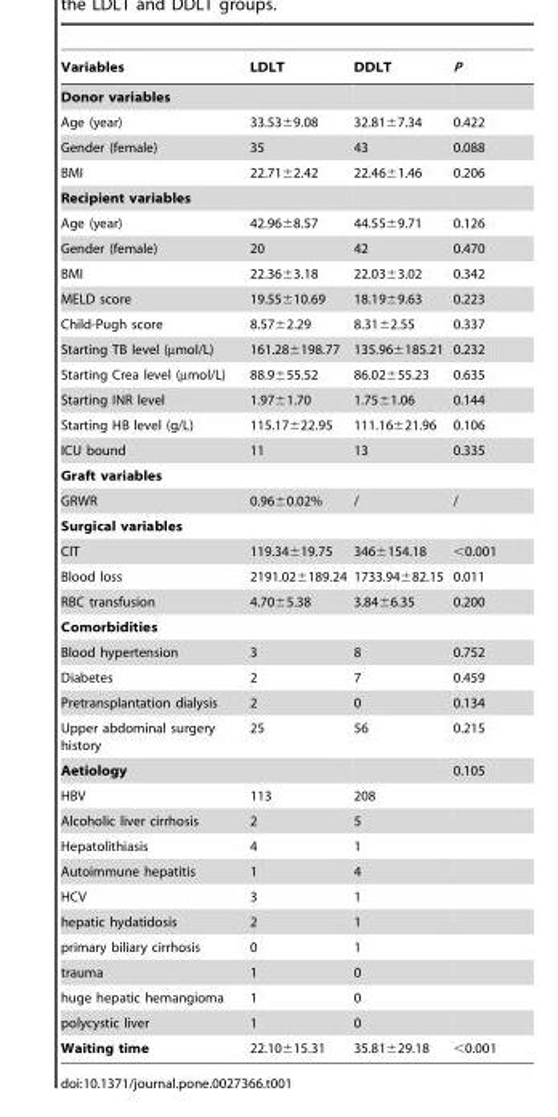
<table><thead><tr><td>Variables</td><td>LDLT</td><td>DDLT</td><td>P</td></tr></thead><tbody><tr><td colspan="4">Donor variables</td></tr><tr><td>Age (year)</td><td>33.53±9.08</td><td>32.81±7.34</td><td>0.422</td></tr><tr><td>Gender (female)</td><td>35</td><td>43</td><td>0.088</td></tr><tr><td>BMI</td><td>22.71±2.42</td><td>22.46±1.46</td><td>0.206</td></tr><tr><td colspan="4">Recipient variables</td></tr><tr><td>Age (year)</td><td>42.96±8.57</td><td>44.55±9.71</td><td>0.126</td></tr><tr><td>Gender (female)</td><td>20</td><td>42</td><td>0.470</td></tr><tr><td>BMI</td><td>22.36±3.18</td><td>22.03±3.02</td><td>0.342</td></tr><tr><td>MELD score</td><td>19.55±10.69</td><td>18.19±9.63</td><td>0.223</td></tr><tr><td>Child-Pugh score</td><td>8.57±2.29</td><td>8.31±2.55</td><td>0.337</td></tr><tr><td>Starting TB level (µmol/L)</td><td>161.28±198.77</td><td>135.96±185.21</td><td>0.232</td></tr><tr><td>Starting Crea level (µmol/L)</td><td>88.9±55.52</td><td>86.02±55.23</td><td>0.635</td></tr><tr><td>Starting INR level</td><td>1.97±1.70</td><td>1.75±1.06</td><td>0.144</td></tr><tr><td>Starting HB level (g/L)</td><td>115.17±22.95</td><td>111.16±21.96</td><td>0.106</td></tr><tr><td>ICU bound</td><td>11</td><td>13</td><td>0.335</td></tr><tr><td colspan="4">Graft variables</td></tr><tr><td>GRWR</td><td>0.96±0.02%</td><td>/</td><td>/</td></tr><tr><td colspan="4">Surgical variables</td></tr><tr><td>CIT</td><td>119.34±19.75</td><td>346±154.18</td><td>&lt;0.001</td></tr><tr><td>Blood loss</td><td>2191.02±189.24</td><td>1733.94±82.15</td><td>0.011</td></tr><tr><td>RBC transfusion</td><td>4.70±5.38</td><td>3.84±6.35</td><td>0.200</td></tr><tr><td colspan="4">Comorbidities</td></tr><tr><td>Blood hypertension</td><td>3</td><td>8</td><td>0.752</td></tr><tr><td>Diabetes</td><td>2</td><td>7</td><td>0.459</td></tr><tr><td>Pretransplantation dialysis</td><td>2</td><td>0</td><td>0.134</td></tr><tr><td>Upper abdominal surgery history</td><td>25</td><td>56</td><td>0.215</td></tr><tr><td>Aetiology</td><td></td><td></td><td>0.105</td></tr><tr><td>HBV</td><td>113</td><td>208</td><td></td></tr><tr><td>Alcoholic liver cirrhosis</td><td>2</td><td>5</td><td></td></tr><tr><td>Hepatolithiasis</td><td>4</td><td>1</td><td></td></tr><tr><td>Autoimmune hepatitis</td><td>1</td><td>4</td><td></td></tr><tr><td>HCV</td><td>3</td><td>1</td><td></td></tr><tr><td>hepatic hydatidosis</td><td>2</td><td>1</td><td></td></tr><tr><td>primary biliary cirrhosis</td><td>0</td><td>1</td><td></td></tr><tr><td>trauma</td><td>1</td><td>0</td><td></td></tr><tr><td>huge hepatic hemangioma</td><td>1</td><td>0</td><td></td></tr><tr><td>polycystic liver</td><td>1</td><td>0</td><td></td></tr><tr><td>Waiting time</td><td>22.10±15.31</td><td>35.81±29.18</td><td>&lt;0.001</td></tr></tbody></table>